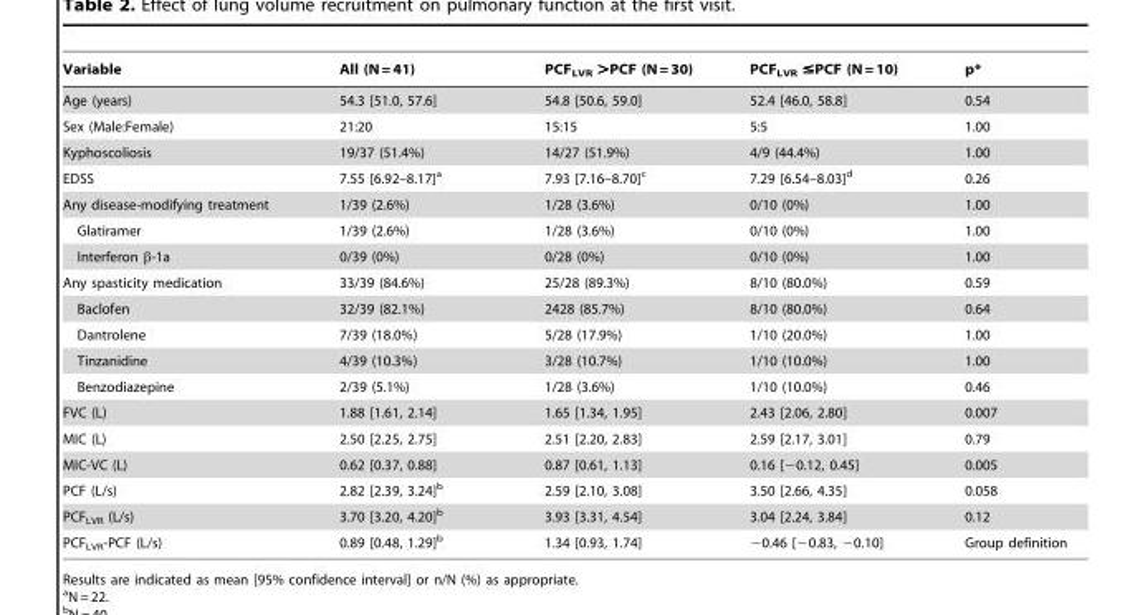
<table><thead><tr><td>Variable</td><td>All (N = 41)</td><td>PCF<sub>LVR</sub> &gt;PCF (N = 30)</td><td>PCF<sub>LVR</sub> ≤PCF (N = 10)</td><td>p*</td></tr></thead><tbody><tr><td>Age (years)</td><td>54.3 [51.0, 57.6]</td><td>54.8 [50.6, 59.0]</td><td>52.4 [46.0, 58.8]</td><td>0.54</td></tr><tr><td>Sex (Male:Female)</td><td>21:20</td><td>15:15</td><td>5:5</td><td>1.00</td></tr><tr><td>Kyphoscoliosis</td><td>19/37 (51.4%)</td><td>14/27 (51.9%)</td><td>4/9 (44.4%)</td><td>1.00</td></tr><tr><td>EDSS</td><td>7.55 [6.92–8.17]<sup>a</sup></td><td>7.93 [7.16–8.70]<sup>c</sup></td><td>7.29 [6.54–8.03]<sup>d</sup></td><td>0.26</td></tr><tr><td>Any disease-modifying treatment</td><td>1/39 (2.6%)</td><td>1/28 (3.6%)</td><td>0/10 (0%)</td><td>1.00</td></tr><tr><td>Glatiramer</td><td>1/39 (2.6%)</td><td>1/28 (3.6%)</td><td>0/10 (0%)</td><td>1.00</td></tr><tr><td>Interferon β-1a</td><td>0/39 (0%)</td><td>0/28 (0%)</td><td>0/10 (0%)</td><td>1.00</td></tr><tr><td>Any spasticity medication</td><td>33/39 (84.6%)</td><td>25/28 (89.3%)</td><td>8/10 (80.0%)</td><td>0.59</td></tr><tr><td>Baclofen</td><td>32/39 (82.1%)</td><td>2428 (85.7%)</td><td>8/10 (80.0%)</td><td>0.64</td></tr><tr><td>Dantrolene</td><td>7/39 (18.0%)</td><td>5/28 (17.9%)</td><td>1/10 (20.0%)</td><td>1.00</td></tr><tr><td>Tinzanidine</td><td>4/39 (10.3%)</td><td>3/28 (10.7%)</td><td>1/10 (10.0%)</td><td>1.00</td></tr><tr><td>Benzodiazepine</td><td>2/39 (5.1%)</td><td>1/28 (3.6%)</td><td>1/10 (10.0%)</td><td>0.46</td></tr><tr><td>FVC (L)</td><td>1.88 [1.61, 2.14]</td><td>1.65 [1.34, 1.95]</td><td>2.43 [2.06, 2.80]</td><td>0.007</td></tr><tr><td>MIC (L)</td><td>2.50 [2.25, 2.75]</td><td>2.51 [2.20, 2.83]</td><td>2.59 [2.17, 3.01]</td><td>0.79</td></tr><tr><td>MIC-VC (L)</td><td>0.62 [0.37, 0.88]</td><td>0.87 [0.61, 1.13]</td><td>0.16 [−0.12, 0.45]</td><td>0.005</td></tr><tr><td>PCF (L/s)</td><td>2.82 [2.39, 3.24]<sup>b</sup></td><td>2.59 [2.10, 3.08]</td><td>3.50 [2.66, 4.35]</td><td>0.058</td></tr><tr><td>PCF<sub>LVR</sub> (L/s)</td><td>3.70 [3.20, 4.20]<sup>b</sup></td><td>3.93 [3.31, 4.54]</td><td>3.04 [2.24, 3.84]</td><td>0.12</td></tr><tr><td>PCF<sub>LVR</sub>-PCF (L/s)</td><td>0.89 [0.48, 1.29]<sup>b</sup></td><td>1.34 [0.93, 1.74]</td><td>−0.46 [−0.83, −0.10]</td><td>Group definition</td></tr></tbody></table>